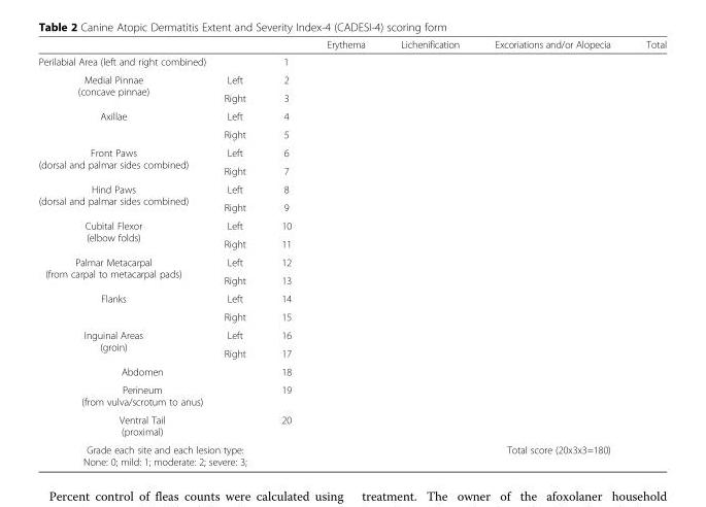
<table><thead><tr><td></td><td></td><td></td><td>Erythema</td><td>Lichenification</td><td>Excoriations and/or Alopecia</td><td>Total</td></tr></thead><tbody><tr><td colspan="2">Perilabial Area (left and right combined)</td><td>1</td><td></td><td></td><td></td><td></td></tr><tr><td rowspan="2">Medial Pinnae (concave pinnae)</td><td>Left</td><td>2</td><td></td><td></td><td></td><td></td></tr><tr><td>Right</td><td>3</td><td></td><td></td><td></td><td></td></tr><tr><td rowspan="2">Axillae</td><td>Left</td><td>4</td><td></td><td></td><td></td><td></td></tr><tr><td>Right</td><td>5</td><td></td><td></td><td></td><td></td></tr><tr><td rowspan="2">Front Paws (dorsal and palmar sides combined)</td><td>Left</td><td>6</td><td></td><td></td><td></td><td></td></tr><tr><td>Right</td><td>7</td><td></td><td></td><td></td><td></td></tr><tr><td rowspan="2">Hind Paws (dorsal and palmar sides combined)</td><td>Left</td><td>8</td><td></td><td></td><td></td><td></td></tr><tr><td>Right</td><td>9</td><td></td><td></td><td></td><td></td></tr><tr><td rowspan="2">Cubital Flexor (elbow folds)</td><td>Left</td><td>10</td><td></td><td></td><td></td><td></td></tr><tr><td>Right</td><td>11</td><td></td><td></td><td></td><td></td></tr><tr><td rowspan="2">Palmar Metacarpal (from carpal to metacarpal pads)</td><td>Left</td><td>12</td><td></td><td></td><td></td><td></td></tr><tr><td>Right</td><td>13</td><td></td><td></td><td></td><td></td></tr><tr><td rowspan="2">Flanks</td><td>Left</td><td>14</td><td></td><td></td><td></td><td></td></tr><tr><td>Right</td><td>15</td><td></td><td></td><td></td><td></td></tr><tr><td rowspan="2">Inguinal Areas (groin)</td><td>Left</td><td>16</td><td></td><td></td><td></td><td></td></tr><tr><td>Right</td><td>17</td><td></td><td></td><td></td><td></td></tr><tr><td colspan="2">Abdomen</td><td>18</td><td></td><td></td><td></td><td></td></tr><tr><td colspan="2">Perineum (from vulva/scrotum to anus)</td><td>19</td><td></td><td></td><td></td><td></td></tr><tr><td colspan="2">Ventral Tail (proximal)</td><td>20</td><td></td><td></td><td></td><td></td></tr><tr><td colspan="3">Grade each site and each lesion type: None: 0; mild: 1; moderate: 2; severe: 3;</td><td colspan="3">Total score (20x3x3=180)</td><td></td></tr></tbody></table>